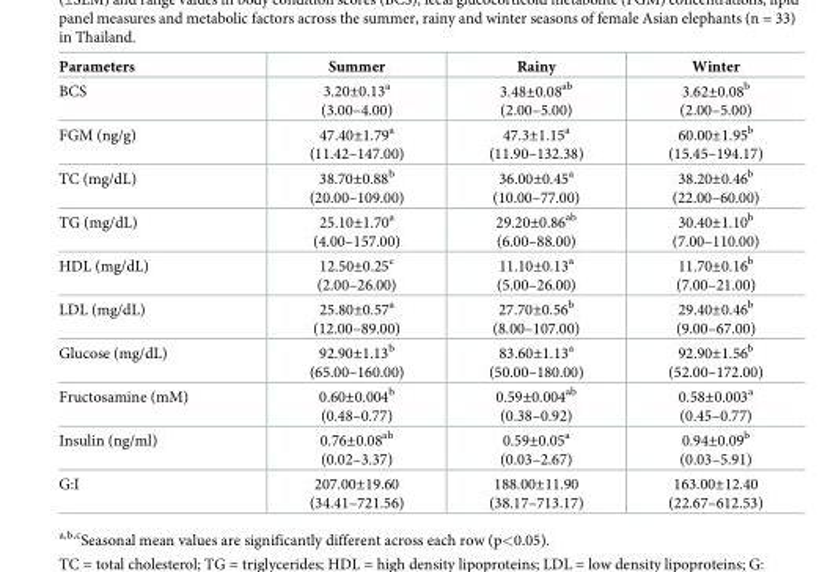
<table><thead><tr><td>Parameters</td><td>Summer</td><td>Rainy</td><td>Winter</td></tr></thead><tbody><tr><td>BCS</td><td>3.20±0.13<sup>a</sup> (3.00–4.00)</td><td>3.48±0.08<sup>ab</sup> (2.00–5.00)</td><td>3.62±0.08<sup>b</sup> (2.00–5.00)</td></tr><tr><td>FGM (ng/g)</td><td>47.40±1.79<sup>a</sup> (11.42–147.00)</td><td>47.3±1.15<sup>a</sup> (11.90–132.38)</td><td>60.00±1.95<sup>b</sup> (15.45–194.17)</td></tr><tr><td>TC (mg/dL)</td><td>38.70±0.88<sup>b</sup> (20.00–109.00)</td><td>36.00±0.45<sup>a</sup> (10.00–77.00)</td><td>38.20±0.46<sup>b</sup> (22.00–60.00)</td></tr><tr><td>TG (mg/dL)</td><td>25.10±1.70<sup>a</sup> (4.00–157.00)</td><td>29.20±0.86<sup>ab</sup> (6.00–88.00)</td><td>30.40±1.10<sup>b</sup> (7.00–110.00)</td></tr><tr><td>HDL (mg/dL)</td><td>12.50±0.25<sup>c</sup> (2.00–26.00)</td><td>11.10±0.13<sup>a</sup> (5.00–26.00)</td><td>11.70±0.16<sup>b</sup> (7.00–21.00)</td></tr><tr><td>LDL (mg/dL)</td><td>25.80±0.57<sup>a</sup> (12.00–89.00)</td><td>27.70±0.56<sup>b</sup> (8.00–107.00)</td><td>29.40±0.46<sup>b</sup> (9.00–67.00)</td></tr><tr><td>Glucose (mg/dL)</td><td>92.90±1.13<sup>b</sup> (65.00–160.00)</td><td>83.60±1.13<sup>a</sup> (50.00–180.00)</td><td>92.90±1.56<sup>b</sup> (52.00–172.00)</td></tr><tr><td>Fructosamine (mM)</td><td>0.60±0.004<sup>b</sup> (0.48–0.77)</td><td>0.59±0.004<sup>ab</sup> (0.38–0.92)</td><td>0.58±0.003<sup>a</sup> (0.45–0.77)</td></tr><tr><td>Insulin (ng/ml)</td><td>0.76±0.08<sup>ab</sup> (0.02–3.37)</td><td>0.59±0.05<sup>a</sup> (0.03–2.67)</td><td>0.94±0.09<sup>b</sup> (0.03–5.91)</td></tr><tr><td>G:I</td><td>207.00±19.60 (34.41–721.56)</td><td>188.00±11.90 (38.17–713.17)</td><td>163.00±12.40 (22.67–612.53)</td></tr></tbody></table>